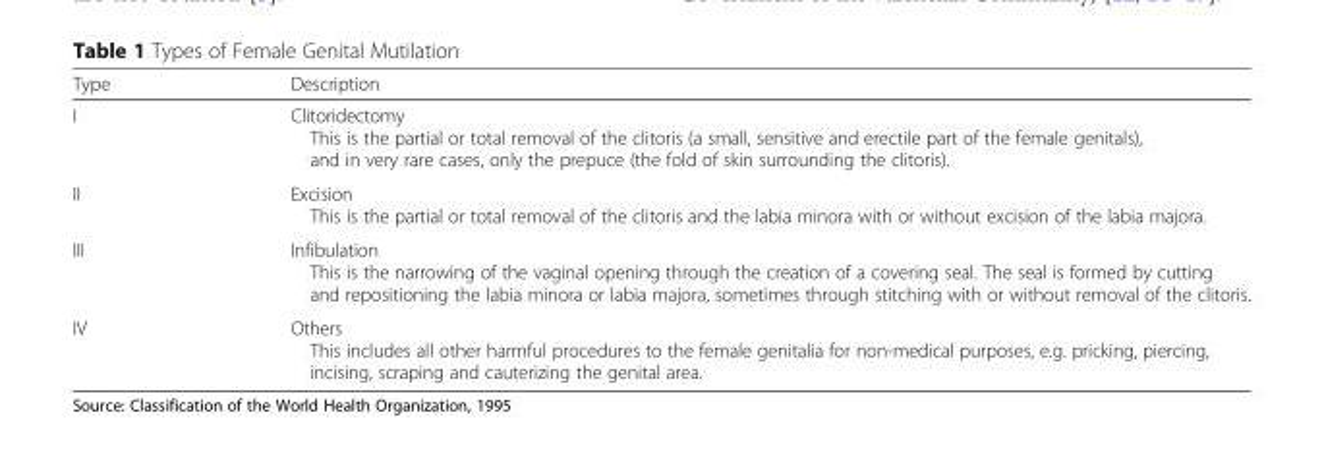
<table><thead><tr><td>Type</td><td>Description</td></tr></thead><tbody><tr><td>I</td><td>Clitoridectomy This is the partial or total removal of the clitoris (a small, sensitive and erectile part of the female genitals), and in very rare cases, only the prepuce (the fold of skin surrounding the clitoris).</td></tr><tr><td>II</td><td>Excision This is the partial or total removal of the clitoris and the labia minora with or without excision of the labia majora.</td></tr><tr><td>III</td><td>Infibulation This is the narrowing of the vaginal opening through the creation of a covering seal. The seal is formed by cutting and repositioning the labia minora or labia majora, sometimes through stitching with or without removal of the clitoris.</td></tr><tr><td>IV</td><td>Others This includes all other harmful procedures to the female genitalia for non-medical purposes, e.g. pricking, piercing, incising, scraping and cauterizing the genital area.</td></tr></tbody></table>